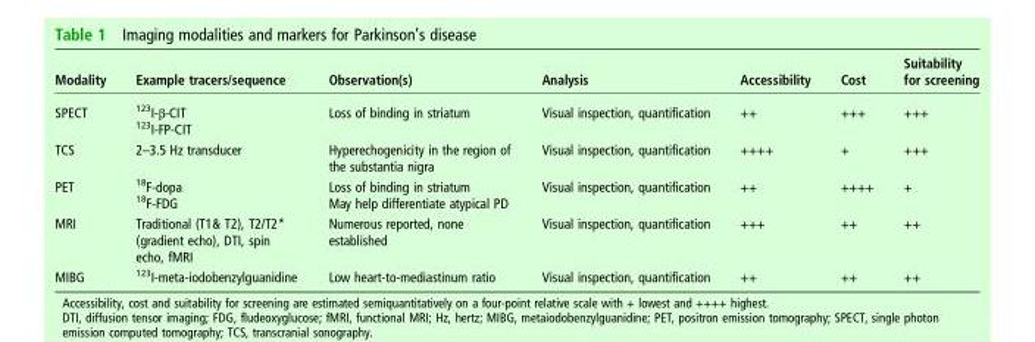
<table><thead><tr><td>Modality</td><td>Example tracers/sequence</td><td>Observation(s)</td><td>Analysis</td><td>Accessibility</td><td>Cost</td><td>Suitability for screening</td></tr></thead><tbody><tr><td>SPECT</td><td><sup>123</sup>I-β-CIT <sup>123</sup>I-FP-CIT</td><td>Loss of binding in striatum</td><td>Visual inspection, quantification</td><td>++</td><td>+++</td><td>+++</td></tr><tr><td>TCS</td><td>2–3.5 Hz transducer</td><td>Hyperechogenicity in the region of the substantia nigra</td><td>Visual inspection, quantification</td><td>++++</td><td>+</td><td>+++</td></tr><tr><td>PET</td><td><sup>18</sup>F-dopa <sup>18</sup>F-FDG</td><td>Loss of binding in striatum May help differentiate atypical PD</td><td>Visual inspection, quantification</td><td>++</td><td>++++</td><td>+</td></tr><tr><td>MRI</td><td>Traditional (T1&amp; T2), T2/T2* (gradient echo), DTI, spin echo, fMRI</td><td>Numerous reported, none established</td><td>Visual inspection, quantification</td><td>+++</td><td>++</td><td>++</td></tr><tr><td>MIBG</td><td><sup>123</sup>I-meta-iodobenzylguanidine</td><td>Low heart-to-mediastinum ratio</td><td>Visual inspection, quantification</td><td>++</td><td>++</td><td>++</td></tr></tbody></table>